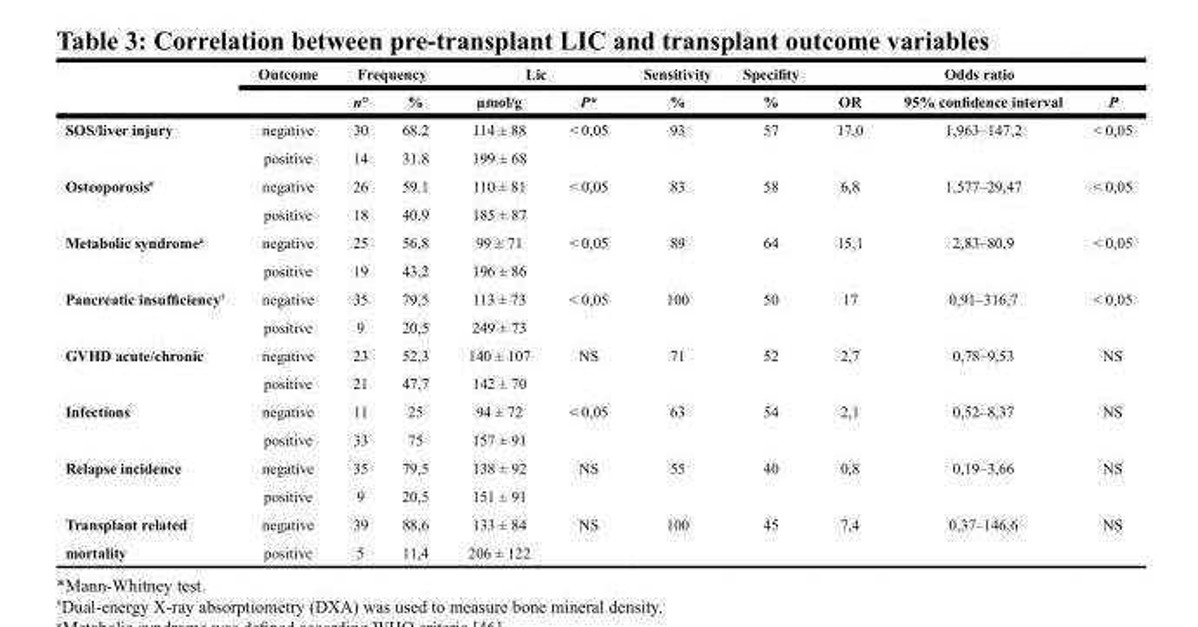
<table><thead><tr><td rowspan="2"></td><td rowspan="2">Outcome</td><td colspan="2">Frequency</td><td colspan="2">Lic</td><td rowspan="2">Sensitivity %</td><td rowspan="2">Specifity %</td><td colspan="3">Odds ratio</td></tr><tr><td>n°</td><td>%</td><td>µmol/g</td><td>P*</td><td>OR</td><td>95% confidence interval</td><td>P</td></tr></thead><tbody><tr><td rowspan="2">SOS/liver injury</td><td>negative</td><td>30</td><td>68.2</td><td>114 ± 88</td><td>&lt; 0,05</td><td>93</td><td>57</td><td>17,0</td><td>1,963–147,2</td><td>&lt; 0,05</td></tr><tr><td>positive</td><td>14</td><td>31.8</td><td>199 ± 68</td><td></td><td></td><td></td><td></td><td></td><td></td></tr><tr><td rowspan="2">Osteoporosis<sup>#</sup></td><td>negative</td><td>26</td><td>59.1</td><td>110 ± 81</td><td>&lt; 0,05</td><td>83</td><td>58</td><td>6,8</td><td>1,577–29,47</td><td>&lt; 0,05</td></tr><tr><td>positive</td><td>18</td><td>40.9</td><td>185 ± 87</td><td></td><td></td><td></td><td></td><td></td><td></td></tr><tr><td rowspan="2">Metabolic syndrome<sup>ϰ</sup></td><td>negative</td><td>25</td><td>56,8</td><td>99 ± 71</td><td>&lt; 0,05</td><td>89</td><td>64</td><td>15,1</td><td>2,83–80,9</td><td>&lt; 0,05</td></tr><tr><td>positive</td><td>19</td><td>43,2</td><td>196 ± 86</td><td></td><td></td><td></td><td></td><td></td><td></td></tr><tr><td rowspan="2">Pancreatic insufficiency<sup>†</sup></td><td>negative</td><td>35</td><td>79,5</td><td>113 ± 73</td><td>&lt; 0,05</td><td>100</td><td>50</td><td>17</td><td>0,91–316,7</td><td>&lt; 0,05</td></tr><tr><td>positive</td><td>9</td><td>20,5</td><td>249 ± 73</td><td></td><td></td><td></td><td></td><td></td><td></td></tr><tr><td rowspan="2">GVHD acute/chronic</td><td>negative</td><td>23</td><td>52,3</td><td>140 ± 107</td><td>NS</td><td>71</td><td>52</td><td>2,7</td><td>0,78–9,53</td><td>NS</td></tr><tr><td>positive</td><td>21</td><td>47,7</td><td>142 ± 70</td><td></td><td></td><td></td><td></td><td></td><td></td></tr><tr><td rowspan="2">Infections</td><td>negative</td><td>11</td><td>25</td><td>94 ± 72</td><td>&lt; 0,05</td><td>63</td><td>54</td><td>2,1</td><td>0,52–8,37</td><td>NS</td></tr><tr><td>positive</td><td>33</td><td>75</td><td>157 ± 91</td><td></td><td></td><td></td><td></td><td></td><td></td></tr><tr><td rowspan="2">Relapse incidence</td><td>negative</td><td>35</td><td>79,5</td><td>138 ± 92</td><td>NS</td><td>55</td><td>40</td><td>0,8</td><td>0,19–3,66</td><td>NS</td></tr><tr><td>positive</td><td>9</td><td>20,5</td><td>151 ± 91</td><td></td><td></td><td></td><td></td><td></td><td></td></tr><tr><td>Transplant related</td><td>negative</td><td>39</td><td>88,6</td><td>133 ± 84</td><td>NS</td><td>100</td><td>45</td><td>7,4</td><td>0,37–146,6</td><td>NS</td></tr><tr><td>mortality</td><td>positive</td><td>5</td><td>11,4</td><td>206 ± 122</td><td></td><td></td><td></td><td></td><td></td><td></td></tr></tbody></table>